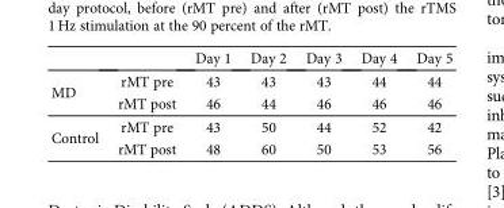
<table><thead><tr><td></td><td></td><td>Day 1</td><td>Day 2</td><td>Day 3</td><td>Day 4</td><td>Day 5</td></tr></thead><tbody><tr><td rowspan="2">MD</td><td>rMT pre</td><td>43</td><td>43</td><td>43</td><td>44</td><td>44</td></tr><tr><td>rMT post</td><td>46</td><td>44</td><td>46</td><td>46</td><td>46</td></tr><tr><td rowspan="2">Control</td><td>rMT pre</td><td>43</td><td>50</td><td>44</td><td>52</td><td>42</td></tr><tr><td>rMT post</td><td>48</td><td>60</td><td>50</td><td>53</td><td>56</td></tr></tbody></table>